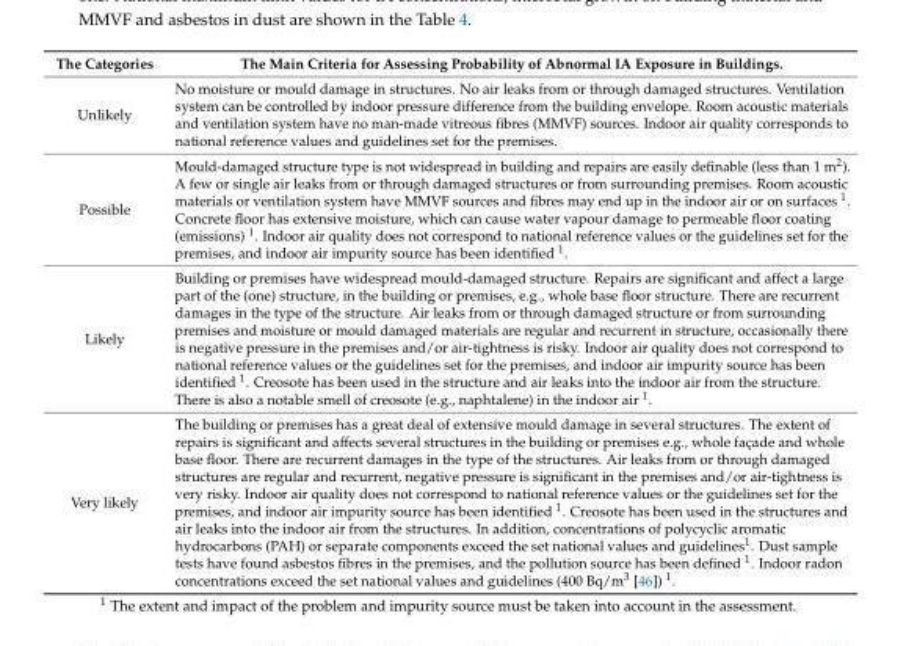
<table><thead><tr><td>The Categories</td><td>The Main Criteria for Assessing Probability of Abnormal IA Exposure in Buildings.</td></tr></thead><tbody><tr><td>Unlikely</td><td>No moisture or mould damage in structures. No air leaks from or through damaged structures. Ventilation system can be controlled by indoor pressure difference from the building envelope. Room acoustic materials and ventilation system have no man-made vitreous fibres (MMVF) sources. Indoor air quality corresponds to national reference values and guidelines set for the premises.</td></tr><tr><td>Possible</td><td>Mould-damaged structure type is not widespread in building and repairs are easily definable (less than 1 m<sup>2</sup>). A few or single air leaks from or through damaged structures or from surrounding premises. Room acoustic materials or ventilation system have MMVF sources and fibres may end up in the indoor air or on surfaces <sup>1</sup>. Concrete floor has extensive moisture, which can cause water vapour damage to permeable floor coating (emissions) <sup>1</sup>. Indoor air quality does not correspond to national reference values or the guidelines set for the premises, and indoor air impurity source has been identified <sup>1</sup>.</td></tr><tr><td>Likely</td><td>Building or premises have widespread mould-damaged structure. Repairs are significant and affect a large part of the (one) structure, in the building or premises, e.g., whole base floor structure. There are recurrent damages in the type of the structure. Air leaks from or through damaged structure or from surrounding premises and moisture or mould damaged materials are regular and recurrent in structure, occasionally there is negative pressure in the premises and/or air-tightness is risky. Indoor air quality does not correspond to national reference values or the guidelines set for the premises, and indoor air impurity source has been identified <sup>1</sup>. Creosote has been used in the structure and air leaks into the indoor air from the structure. There is also a notable smell of creosote (e.g., naphtalene) in the indoor air <sup>1</sup>.</td></tr><tr><td>Very likely</td><td>The building or premises has a great deal of extensive mould damage in several structures. The extent of repairs is significant and affects several structures in the building or premises e.g., whole façade and whole base floor. There are recurrent damages in the type of the structures. Air leaks from or through damaged structures are regular and recurrent, negative pressure is significant in the premises and/or air-tightness is very risky. Indoor air quality does not correspond to national reference values or the guidelines set for the premises, and indoor air impurity source has been identified <sup>1</sup>. Creosote has been used in the structures and air leaks into the indoor air from the structures. In addition, concentrations of polycyclic aromatic hydrocarbons (PAH) or separate components exceed the set national values and guidelines<sup>1</sup>. Dust sample tests have found asbestos fibres in the premises, and the pollution source has been defined <sup>1</sup>. Indoor radon concentrations exceed the set national values and guidelines (400 Bq/m<sup>3</sup> [46]) <sup>1</sup>.</td></tr></tbody></table>